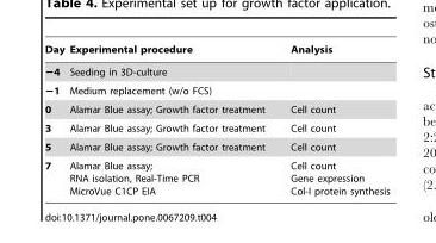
<table><thead><tr><td>Day</td><td>Experimental procedure</td><td>Analysis</td></tr></thead><tbody><tr><td>−4</td><td>Seeding in 3D-culture</td><td></td></tr><tr><td>−1</td><td>Medium replacement (w/o FCS)</td><td></td></tr><tr><td>0</td><td>Alamar Blue assay; Growth factor treatment</td><td>Cell count</td></tr><tr><td>3</td><td>Alamar Blue assay; Growth factor treatment</td><td>Cell count</td></tr><tr><td>5</td><td>Alamar Blue assay; Growth factor treatment</td><td>Cell count</td></tr><tr><td>7</td><td>Alamar Blue assay; RNA isolation, Real-Time PCR MicroVue C1CP EIA</td><td>Cell count Gene expression Col-I protein synthesis</td></tr></tbody></table>